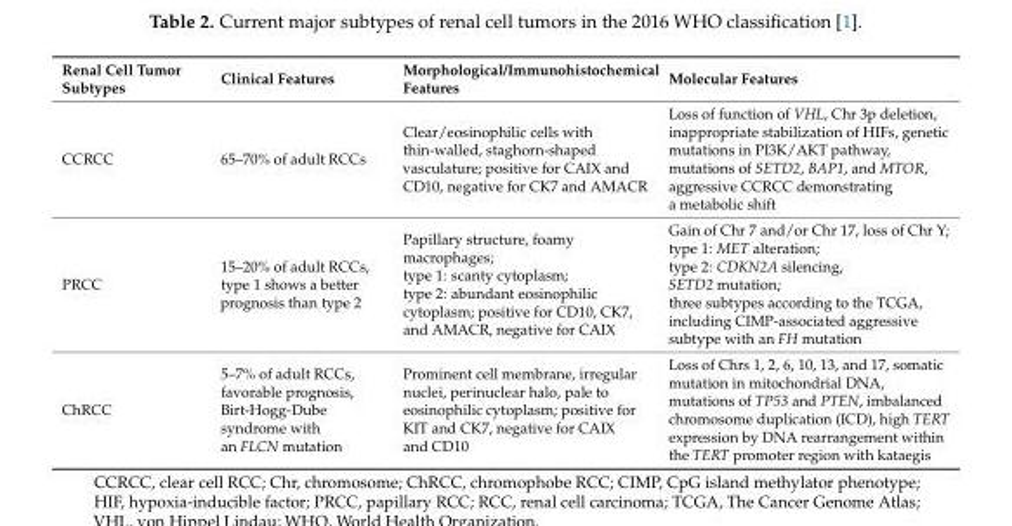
<table><thead><tr><td>Renal Cell Tumor Subtypes</td><td>Clinical Features</td><td>Morphological/Immunohistochemical Features</td><td>Molecular Features</td></tr></thead><tbody><tr><td>CCRCC</td><td>65–70% of adult RCCs</td><td>Clear/eosinophilic cells with thin-walled, staghorn-shaped vasculature; positive for CAIX and CD10, negative for CK7 and AMACR</td><td>Loss of function of VHL, Chr 3p deletion, inappropriate stabilization of HIFs, genetic mutations in PI3K/AKT pathway, mutations of SETD2, BAP1, and MTOR, aggressive CCRCC demonstrating a metabolic shift</td></tr><tr><td>PRCC</td><td>15–20% of adult RCCs, type 1 shows a better prognosis than type 2</td><td>Papillary structure, foamy macrophages; type 1: scanty cytoplasm; type 2: abundant eosinophilic cytoplasm; positive for CD10, CK7, and AMACR, negative for CAIX</td><td>Gain of Chr 7 and/or Chr 17, loss of Chr Y; type 1: MET alteration; type 2: CDKN2A silencing, SETD2 mutation; three subtypes according to the TCGA, including CIMP-associated aggressive subtype with an FH mutation</td></tr><tr><td>ChRCC</td><td>5–7% of adult RCCs, favorable prognosis, Birt-Hogg-Dube syndrome with an FLCN mutation</td><td>Prominent cell membrane, irregular nuclei, perinuclear halo, pale to eosinophilic cytoplasm; positive for KIT and CK7, negative for CAIX and CD10</td><td>Loss of Chrs 1, 2, 6, 10, 13, and 17, somatic mutation in mitochondrial DNA, mutations of TP53 and PTEN, imbalanced chromosome duplication (ICD), high TERT expression by DNA rearrangement within the TERT promoter region with kataegis</td></tr></tbody></table>